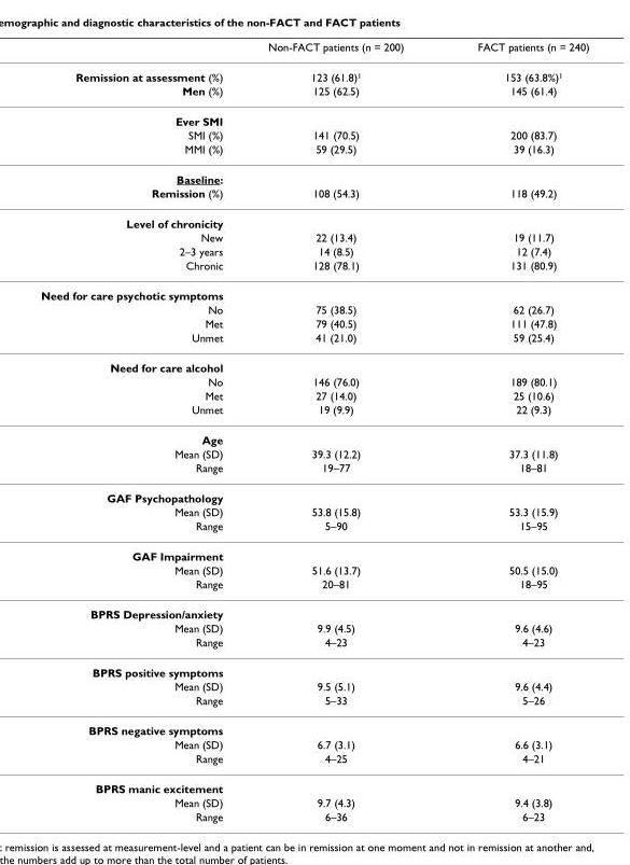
<table><thead><tr><td></td><td>Non-FACT patients (n = 200)</td><td>FACT patients (n = 240)</td></tr></thead><tbody><tr><td>Remission at assessment (%)</td><td>123 (61.8)<sup>1</sup></td><td>153 (63.8%)<sup>1</sup></td></tr><tr><td>Men (%)</td><td>125 (62.5)</td><td>145 (61.4)</td></tr><tr><td colspan="3">Ever SMI</td></tr><tr><td>SMI (%)</td><td>141 (70.5)</td><td>200 (83.7)</td></tr><tr><td>MMI (%)</td><td>59 (29.5)</td><td>39 (16.3)</td></tr><tr><td colspan="3">Baseline:</td></tr><tr><td>Remission (%)</td><td>108 (54.3)</td><td>118 (49.2)</td></tr><tr><td colspan="3">Level of chronicity</td></tr><tr><td>New</td><td>22 (13.4)</td><td>19 (11.7)</td></tr><tr><td>2–3 years</td><td>14 (8.5)</td><td>12 (7.4)</td></tr><tr><td>Chronic</td><td>128 (78.1)</td><td>131 (80.9)</td></tr><tr><td colspan="3">Need for care psychotic symptoms</td></tr><tr><td>No</td><td>75 (38.5)</td><td>62 (26.7)</td></tr><tr><td>Met</td><td>79 (40.5)</td><td>111 (47.8)</td></tr><tr><td>Unmet</td><td>41 (21.0)</td><td>59 (25.4)</td></tr><tr><td colspan="3">Need for care alcohol</td></tr><tr><td>No</td><td>146 (76.0)</td><td>189 (80.1)</td></tr><tr><td>Met</td><td>27 (14.0)</td><td>25 (10.6)</td></tr><tr><td>Unmet</td><td>19 (9.9)</td><td>22 (9.3)</td></tr><tr><td colspan="3">Age</td></tr><tr><td>Mean (SD)</td><td>39.3 (12.2)</td><td>37.3 (11.8)</td></tr><tr><td>Range</td><td>19–77</td><td>18–81</td></tr><tr><td colspan="3">GAF Psychopathology</td></tr><tr><td>Mean (SD)</td><td>53.8 (15.8)</td><td>53.3 (15.9)</td></tr><tr><td>Range</td><td>5–90</td><td>15–95</td></tr><tr><td colspan="3">GAF Impairment</td></tr><tr><td>Mean (SD)</td><td>51.6 (13.7)</td><td>50.5 (15.0)</td></tr><tr><td>Range</td><td>20–81</td><td>18–95</td></tr><tr><td colspan="3">BPRS Depression/anxiety</td></tr><tr><td>Mean (SD)</td><td>9.9 (4.5)</td><td>9.6 (4.6)</td></tr><tr><td>Range</td><td>4–23</td><td>4–23</td></tr><tr><td colspan="3">BPRS positive symptoms</td></tr><tr><td>Mean (SD)</td><td>9.5 (5.1)</td><td>9.6 (4.4)</td></tr><tr><td>Range</td><td>5–33</td><td>5–26</td></tr><tr><td colspan="3">BPRS negative symptoms</td></tr><tr><td>Mean (SD)</td><td>6.7 (3.1)</td><td>6.6 (3.1)</td></tr><tr><td>Range</td><td>4–25</td><td>4–21</td></tr><tr><td colspan="3">BPRS manic excitement</td></tr><tr><td>Mean (SD)</td><td>9.7 (4.3)</td><td>9.4 (3.8)</td></tr><tr><td>Range</td><td>6–36</td><td>6–23</td></tr></tbody></table>